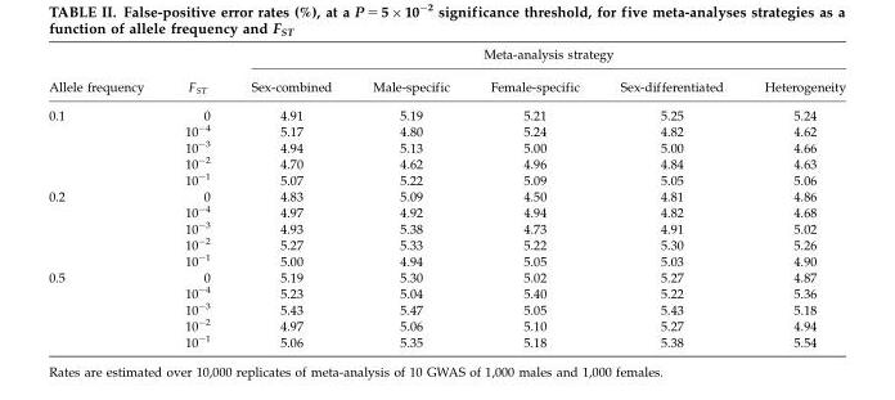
<table><thead><tr><td rowspan="2">Allele frequency</td><td rowspan="2">F<sub>ST</sub></td><td colspan="5">Meta-analysis strategy</td></tr><tr><td>Sex-combined</td><td>Male-specific</td><td>Female-specific</td><td>Sex-differentiated</td><td>Heterogeneity</td></tr></thead><tbody><tr><td rowspan="5">0.1</td><td>0</td><td>4.91</td><td>5.19</td><td>5.21</td><td>5.25</td><td>5.24</td></tr><tr><td>10<sup>−4</sup></td><td>5.17</td><td>4.80</td><td>5.24</td><td>4.82</td><td>4.62</td></tr><tr><td>10<sup>−3</sup></td><td>4.94</td><td>5.13</td><td>5.00</td><td>5.00</td><td>4.66</td></tr><tr><td>10<sup>−2</sup></td><td>4.70</td><td>4.62</td><td>4.96</td><td>4.84</td><td>4.63</td></tr><tr><td>10<sup>−1</sup></td><td>5.07</td><td>5.22</td><td>5.09</td><td>5.05</td><td>5.06</td></tr><tr><td rowspan="5">0.2</td><td>0</td><td>4.83</td><td>5.09</td><td>4.50</td><td>4.81</td><td>4.86</td></tr><tr><td>10<sup>−4</sup></td><td>4.97</td><td>4.92</td><td>4.94</td><td>4.82</td><td>4.68</td></tr><tr><td>10<sup>−3</sup></td><td>4.93</td><td>5.38</td><td>4.73</td><td>4.91</td><td>5.02</td></tr><tr><td>10<sup>−2</sup></td><td>5.27</td><td>5.33</td><td>5.22</td><td>5.30</td><td>5.26</td></tr><tr><td>10<sup>−1</sup></td><td>5.00</td><td>4.94</td><td>5.05</td><td>5.03</td><td>4.90</td></tr><tr><td rowspan="5">0.5</td><td>0</td><td>5.19</td><td>5.30</td><td>5.02</td><td>5.27</td><td>4.87</td></tr><tr><td>10<sup>−4</sup></td><td>5.23</td><td>5.04</td><td>5.40</td><td>5.22</td><td>5.36</td></tr><tr><td>10<sup>−3</sup></td><td>5.43</td><td>5.47</td><td>5.05</td><td>5.43</td><td>5.18</td></tr><tr><td>10<sup>−2</sup></td><td>4.97</td><td>5.06</td><td>5.10</td><td>5.27</td><td>4.94</td></tr><tr><td>10<sup>−1</sup></td><td>5.06</td><td>5.35</td><td>5.18</td><td>5.38</td><td>5.54</td></tr></tbody></table>